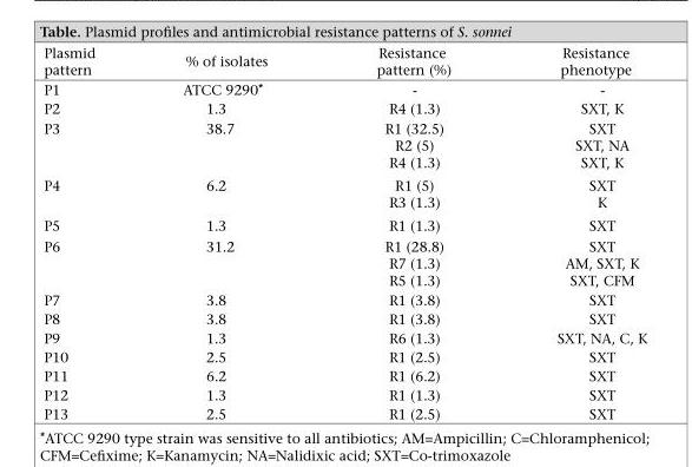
<table><thead><tr><td>Plasmid pattern</td><td>% of isolates</td><td>Resistance pattern (%)</td><td>Resistance phenotype</td></tr></thead><tbody><tr><td>P1</td><td>ATCC 9290*</td><td>-</td><td>-</td></tr><tr><td>P2</td><td>1.3</td><td>R4 (1.3)</td><td>SXT, K</td></tr><tr><td rowspan="3">P3</td><td>38.7</td><td>R1 (32.5)</td><td>SXT</td></tr><tr><td></td><td>R2 (5)</td><td>SXT, NA</td></tr><tr><td></td><td>R4 (1.3)</td><td>SXT, K</td></tr><tr><td rowspan="2">P4</td><td>6.2</td><td>R1 (5)</td><td>SXT</td></tr><tr><td></td><td>R3 (1.3)</td><td>K</td></tr><tr><td>P5</td><td>1.3</td><td>R1 (1.3)</td><td>SXT</td></tr><tr><td rowspan="3">P6</td><td>31.2</td><td>R1 (28.8)</td><td>SXT</td></tr><tr><td></td><td>R7 (1.3)</td><td>AM, SXT, K</td></tr><tr><td></td><td>R5 (1.3)</td><td>SXT, CFM</td></tr><tr><td>P7</td><td>3.8</td><td>R1 (3.8)</td><td>SXT</td></tr><tr><td>P8</td><td>3.8</td><td>R1 (3.8)</td><td>SXT</td></tr><tr><td>P9</td><td>1.3</td><td>R6 (1.3)</td><td>SXT, NA, C, K</td></tr><tr><td>P10</td><td>2.5</td><td>R1 (2.5)</td><td>SXT</td></tr><tr><td>P11</td><td>6.2</td><td>R1 (6.2)</td><td>SXT</td></tr><tr><td>P12</td><td>1.3</td><td>R1 (1.3)</td><td>SXT</td></tr><tr><td>P13</td><td>2.5</td><td>R1 (2.5)</td><td>SXT</td></tr></tbody></table>